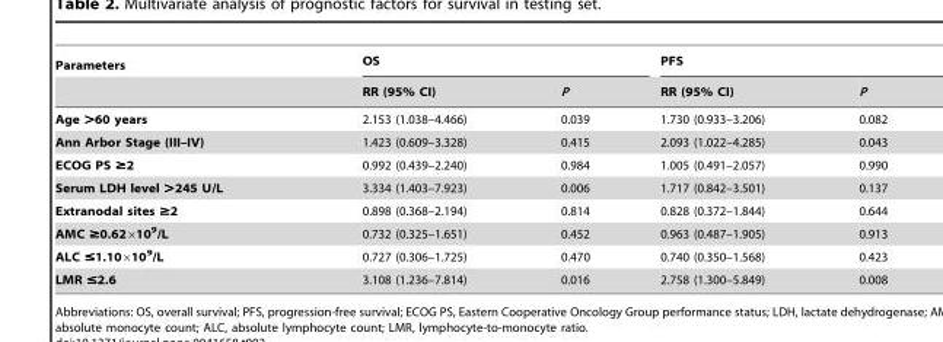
<table><thead><tr><td rowspan="2">Parameters</td><td colspan="2">OS</td><td colspan="2">PFS</td></tr><tr><td>RR (95% CI)</td><td>P</td><td>RR (95% CI)</td><td>P</td></tr></thead><tbody><tr><td>Age &gt;60 years</td><td>2.153 (1.038–4.466)</td><td>0.039</td><td>1.730 (0.933–3.206)</td><td>0.082</td></tr><tr><td>Ann Arbor Stage (III–IV)</td><td>1.423 (0.609–3.328)</td><td>0.415</td><td>2.093 (1.022–4.285)</td><td>0.043</td></tr><tr><td>ECOG PS ≥2</td><td>0.992 (0.439–2.240)</td><td>0.984</td><td>1.005 (0.491–2.057)</td><td>0.990</td></tr><tr><td>Serum LDH level &gt;245 U/L</td><td>3.334 (1.403–7.923)</td><td>0.006</td><td>1.717 (0.842–3.501)</td><td>0.137</td></tr><tr><td>Extranodal sites ≥2</td><td>0.898 (0.368–2.194)</td><td>0.814</td><td>0.828 (0.372–1.844)</td><td>0.644</td></tr><tr><td>AMC ≥0.62×10<sup>9</sup>/L</td><td>0.732 (0.325–1.651)</td><td>0.452</td><td>0.963 (0.487–1.905)</td><td>0.913</td></tr><tr><td>ALC ≤1.10×10<sup>9</sup>/L</td><td>0.727 (0.306–1.725)</td><td>0.470</td><td>0.740 (0.350–1.568)</td><td>0.423</td></tr><tr><td>LMR ≤2.6</td><td>3.108 (1.236–7.814)</td><td>0.016</td><td>2.758 (1.300–5.849)</td><td>0.008</td></tr></tbody></table>